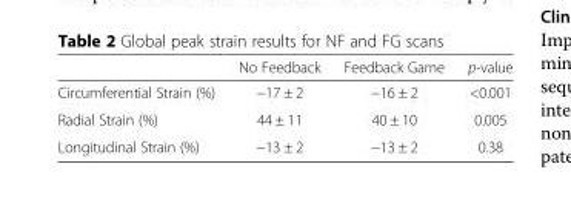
<table><thead><tr><td></td><td>No Feedback</td><td>Feedback Game</td><td>p-value</td></tr></thead><tbody><tr><td>Circumferential Strain (%)</td><td>−17 ± 2</td><td>−16 ± 2</td><td>&lt;0.001</td></tr><tr><td>Radial Strain (%)</td><td>44 ± 11</td><td>40 ± 10</td><td>0.005</td></tr><tr><td>Longitudinal Strain (%)</td><td>−13 ± 2</td><td>−13 ± 2</td><td>0.38</td></tr></tbody></table>